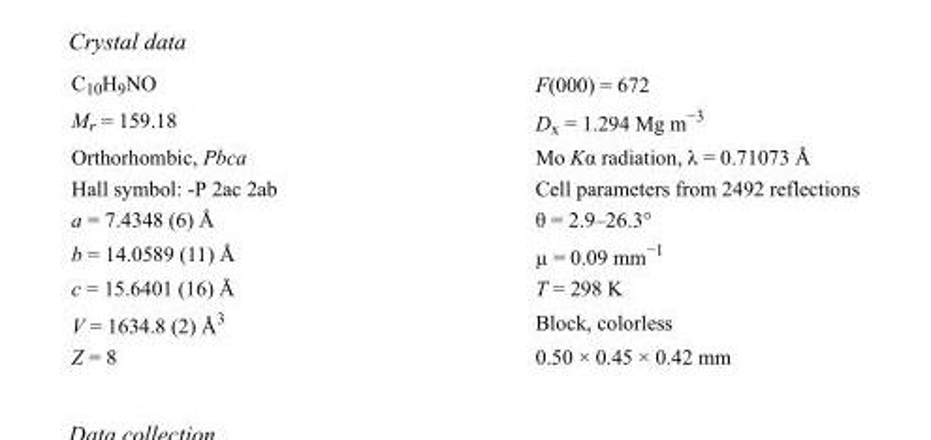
<table><tbody><tr><td>C<sub>10</sub>H<sub>9</sub>NO</td><td>F(000) = 672</td></tr><tr><td>M<sub>r</sub> = 159.18</td><td>D<sub>x</sub> = 1.294 Mg m<sup>−3</sup></td></tr><tr><td>Orthorhombic, Pbca</td><td>Mo Kα radiation, λ = 0.71073 Å</td></tr><tr><td>Hall symbol: -P 2ac 2ab</td><td>Cell parameters from 2492 reflections</td></tr><tr><td>a = 7.4348 (6) Å</td><td>θ = 2.9–26.3°</td></tr><tr><td>b = 14.0589 (11) Å</td><td>µ = 0.09 mm<sup>−1</sup></td></tr><tr><td>c = 15.6401 (16) Å</td><td>T = 298 K</td></tr><tr><td>V = 1634.8 (2) Å<sup>3</sup></td><td>Block, colorless</td></tr><tr><td>Z = 8</td><td>0.50 × 0.45 × 0.42 mm</td></tr></tbody></table>